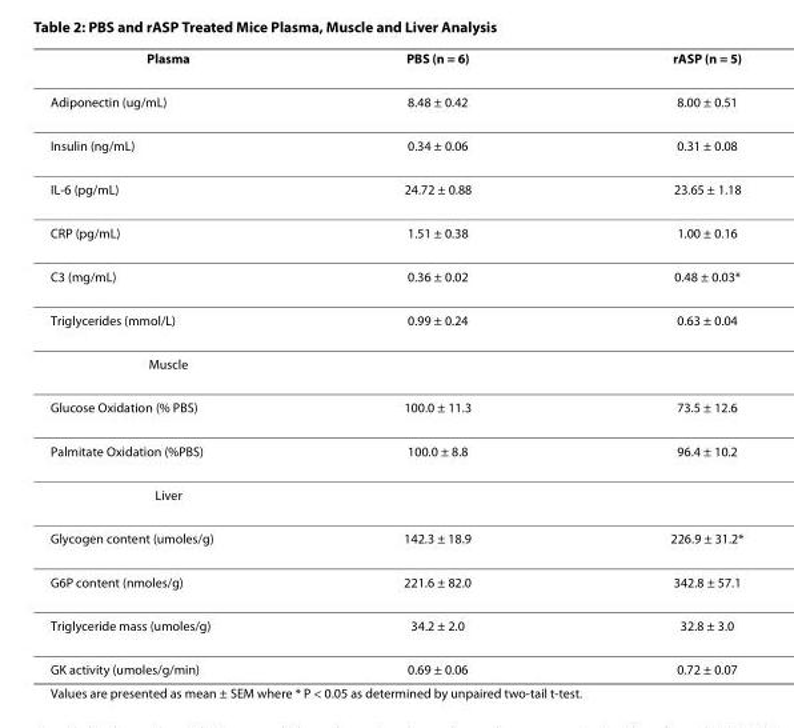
<table><thead><tr><td>Plasma</td><td>PBS (n = 6)</td><td>rASP (n = 5)</td></tr></thead><tbody><tr><td>Adiponectin (ug/mL)</td><td>8.48 ± 0.42</td><td>8.00 ± 0.51</td></tr><tr><td>Insulin (ng/mL)</td><td>0.34 ± 0.06</td><td>0.31 ± 0.08</td></tr><tr><td>IL-6 (pg/mL)</td><td>24.72 ± 0.88</td><td>23.65 ± 1.18</td></tr><tr><td>CRP (pg/mL)</td><td>1.51 ± 0.38</td><td>1.00 ± 0.16</td></tr><tr><td>C3 (mg/mL)</td><td>0.36 ± 0.02</td><td>0.48 ± 0.03*</td></tr><tr><td>Triglycerides (mmol/L)</td><td>0.99 ± 0.24</td><td>0.63 ± 0.04</td></tr><tr><td colspan="3">Muscle</td></tr><tr><td>Glucose Oxidation (% PBS)</td><td>100.0 ± 11.3</td><td>73.5 ± 12.6</td></tr><tr><td>Palmitate Oxidation (%PBS)</td><td>100.0 ± 8.8</td><td>96.4 ± 10.2</td></tr><tr><td colspan="3">Liver</td></tr><tr><td>Glycogen content (umoles/g)</td><td>142.3 ± 18.9</td><td>226.9 ± 31.2*</td></tr><tr><td>G6P content (nmoles/g)</td><td>221.6 ± 82.0</td><td>342.8 ± 57.1</td></tr><tr><td>Triglyceride mass (umoles/g)</td><td>34.2 ± 2.0</td><td>32.8 ± 3.0</td></tr><tr><td>GK activity (umoles/g/min)</td><td>0.69 ± 0.06</td><td>0.72 ± 0.07</td></tr></tbody></table>